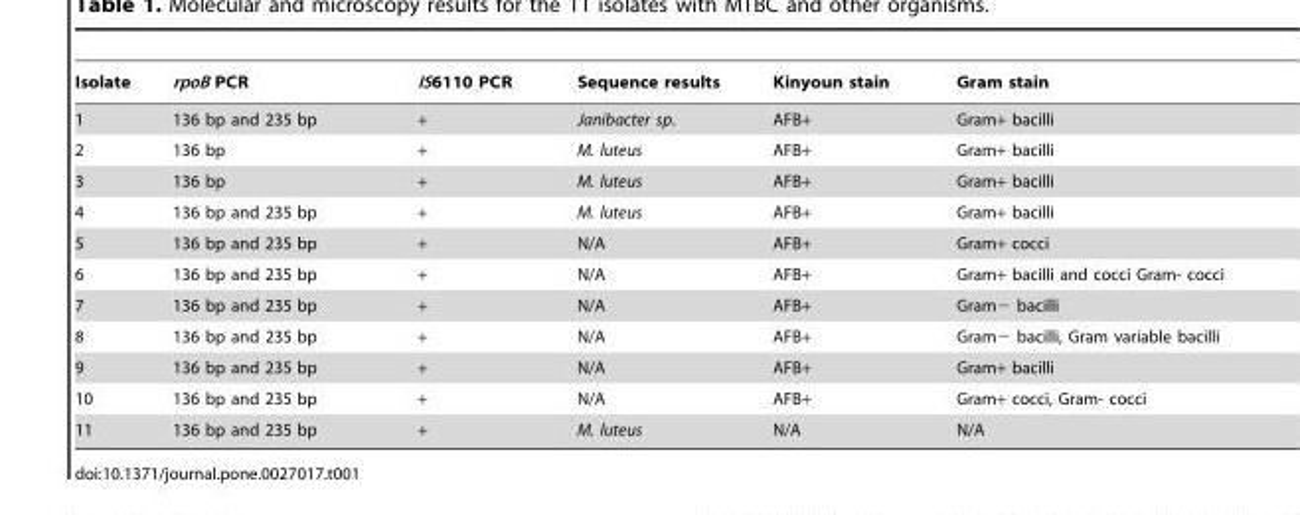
<table><thead><tr><td>Isolate</td><td>rpoB PCR</td><td>IS6110 PCR</td><td>Sequence results</td><td>Kinyoun stain</td><td>Gram stain</td></tr></thead><tbody><tr><td>1</td><td>136 bp and 235 bp</td><td>+</td><td>Janibacter sp.</td><td>AFB+</td><td>Gram+ bacilli</td></tr><tr><td>2</td><td>136 bp</td><td>+</td><td>M. luteus</td><td>AFB+</td><td>Gram+ bacilli</td></tr><tr><td>3</td><td>136 bp</td><td>+</td><td>M. luteus</td><td>AFB+</td><td>Gram+ bacilli</td></tr><tr><td>4</td><td>136 bp and 235 bp</td><td>+</td><td>M. luteus</td><td>AFB+</td><td>Gram+ bacilli</td></tr><tr><td>5</td><td>136 bp and 235 bp</td><td>+</td><td>N/A</td><td>AFB+</td><td>Gram+ cocci</td></tr><tr><td>6</td><td>136 bp and 235 bp</td><td>+</td><td>N/A</td><td>AFB+</td><td>Gram+ bacilli and cocci Gram- cocci</td></tr><tr><td>7</td><td>136 bp and 235 bp</td><td>+</td><td>N/A</td><td>AFB+</td><td>Gram− bacilli</td></tr><tr><td>8</td><td>136 bp and 235 bp</td><td>+</td><td>N/A</td><td>AFB+</td><td>Gram− bacilli, Gram variable bacilli</td></tr><tr><td>9</td><td>136 bp and 235 bp</td><td>+</td><td>N/A</td><td>AFB+</td><td>Gram+ bacilli</td></tr><tr><td>10</td><td>136 bp and 235 bp</td><td>+</td><td>N/A</td><td>AFB+</td><td>Gram+ cocci, Gram- cocci</td></tr><tr><td>11</td><td>136 bp and 235 bp</td><td>+</td><td>M. luteus</td><td>N/A</td><td>N/A</td></tr></tbody></table>